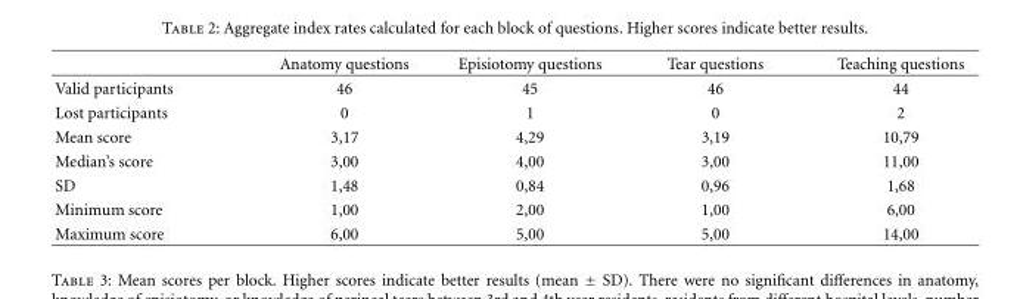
<table><thead><tr><td></td><td>Anatomy questions</td><td>Episiotomy questions</td><td>Tear questions</td><td>Teaching questions</td></tr></thead><tbody><tr><td>Valid participants</td><td>46</td><td>45</td><td>46</td><td>44</td></tr><tr><td>Lost participants</td><td>0</td><td>1</td><td>0</td><td>2</td></tr><tr><td>Mean score</td><td>3,17</td><td>4,29</td><td>3,19</td><td>10,79</td></tr><tr><td>Median’s score</td><td>3,00</td><td>4,00</td><td>3,00</td><td>11,00</td></tr><tr><td>SD</td><td>1,48</td><td>0,84</td><td>0,96</td><td>1,68</td></tr><tr><td>Minimum score</td><td>1,00</td><td>2,00</td><td>1,00</td><td>6,00</td></tr><tr><td>Maximum score</td><td>6,00</td><td>5,00</td><td>5,00</td><td>14,00</td></tr></tbody></table>